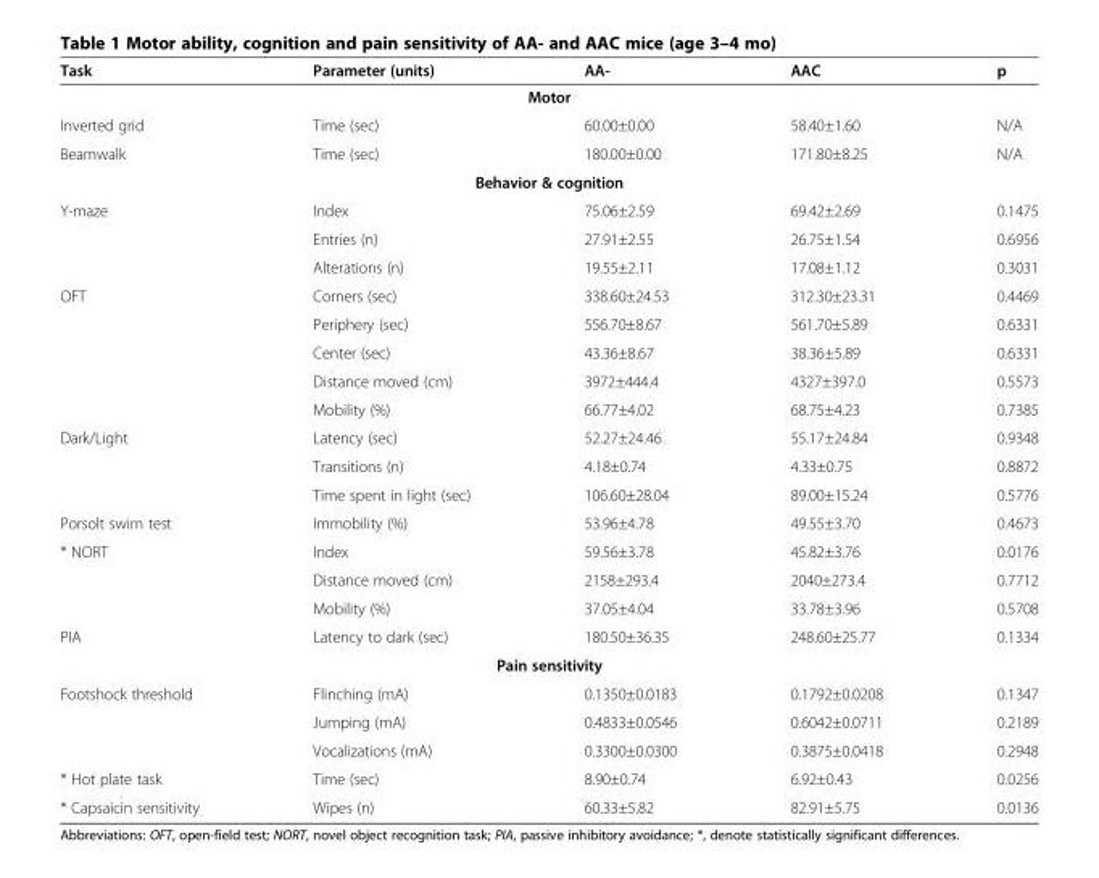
<table><thead><tr><td>Task</td><td>Parameter (units)</td><td>AA-</td><td>AAC</td><td>p</td></tr></thead><tbody><tr><td colspan="5">Motor</td></tr><tr><td>Inverted grid</td><td>Time (sec)</td><td>60.00±0.00</td><td>58.40±1.60</td><td>N/A</td></tr><tr><td>Beamwalk</td><td>Time (sec)</td><td>180.00±0.00</td><td>171.80±8.25</td><td>N/A</td></tr><tr><td colspan="5">Behavior &amp; cognition</td></tr><tr><td rowspan="3">Y-maze</td><td>Index</td><td>75.06±2.59</td><td>69.42±2.69</td><td>0.1475</td></tr><tr><td>Entries (n)</td><td>27.91±2.55</td><td>26.75±1.54</td><td>0.6956</td></tr><tr><td>Alterations (n)</td><td>19.55±2.11</td><td>17.08±1.12</td><td>0.3031</td></tr><tr><td rowspan="5">OFT</td><td>Corners (sec)</td><td>338.60±24.53</td><td>312.30±23.31</td><td>0.4469</td></tr><tr><td>Periphery (sec)</td><td>556.70±8.67</td><td>561.70±5.89</td><td>0.6331</td></tr><tr><td>Center (sec)</td><td>43.36±8.67</td><td>38.36±5.89</td><td>0.6331</td></tr><tr><td>Distance moved (cm)</td><td>3972±444.4</td><td>4327±397.0</td><td>0.5573</td></tr><tr><td>Mobility (%)</td><td>66.77±4.02</td><td>68.75±4.23</td><td>0.7385</td></tr><tr><td rowspan="3">Dark/Light</td><td>Latency (sec)</td><td>52.27±24.46</td><td>55.17±24.84</td><td>0.9348</td></tr><tr><td>Transitions (n)</td><td>4.18±0.74</td><td>4.33±0.75</td><td>0.8872</td></tr><tr><td>Time spent in light (sec)</td><td>106.60±28.04</td><td>89.00±15.24</td><td>0.5776</td></tr><tr><td>Porsolt swim test</td><td>Immobility (%)</td><td>53.96±4.78</td><td>49.55±3.70</td><td>0.4673</td></tr><tr><td rowspan="3">* NORT</td><td>Index</td><td>59.56±3.78</td><td>45.82±3.76</td><td>0.0176</td></tr><tr><td>Distance moved (cm)</td><td>2158±293.4</td><td>2040±273.4</td><td>0.7712</td></tr><tr><td>Mobility (%)</td><td>37.05±4.04</td><td>33.78±3.96</td><td>0.5708</td></tr><tr><td>PIA</td><td>Latency to dark (sec)</td><td>180.50±36.35</td><td>248.60±25.77</td><td>0.1334</td></tr><tr><td colspan="5">Pain sensitivity</td></tr><tr><td rowspan="3">Footshock threshold</td><td>Flinching (mA)</td><td>0.1350±0.0183</td><td>0.1792±0.0208</td><td>0.1347</td></tr><tr><td>Jumping (mA)</td><td>0.4833±0.0546</td><td>0.6042±0.0711</td><td>0.2189</td></tr><tr><td>Vocalizations (mA)</td><td>0.3300±0.0300</td><td>0.3875±0.0418</td><td>0.2948</td></tr><tr><td>* Hot plate task</td><td>Time (sec)</td><td>8.90±0.74</td><td>6.92±0.43</td><td>0.0256</td></tr><tr><td>* Capsaicin sensitivity</td><td>Wipes (n)</td><td>60.33±5.82</td><td>82.91±5.75</td><td>0.0136</td></tr></tbody></table>